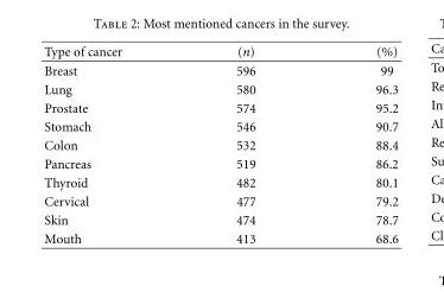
<table><thead><tr><td>Type of cancer</td><td>(n)</td><td>(%)</td></tr></thead><tbody><tr><td>Breast</td><td>596</td><td>99</td></tr><tr><td>Lung</td><td>580</td><td>96.3</td></tr><tr><td>Prostate</td><td>574</td><td>95.2</td></tr><tr><td>Stomach</td><td>546</td><td>90.7</td></tr><tr><td>Colon</td><td>532</td><td>88.4</td></tr><tr><td>Pancreas</td><td>519</td><td>86.2</td></tr><tr><td>Thyroid</td><td>482</td><td>80.1</td></tr><tr><td>Cervical</td><td>477</td><td>79.2</td></tr><tr><td>Skin</td><td>474</td><td>78.7</td></tr><tr><td>Mouth</td><td>413</td><td>68.6</td></tr></tbody></table>